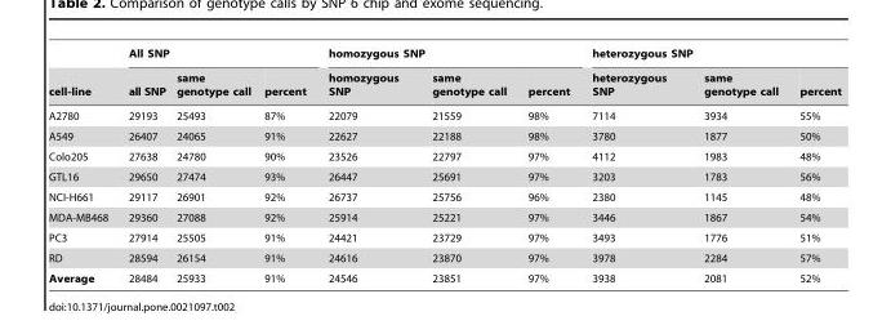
<table><thead><tr><td rowspan="2">cell-line</td><td colspan="3">All SNP</td><td colspan="3">homozygous SNP</td><td colspan="3">heterozygous SNP</td></tr><tr><td>all SNP</td><td>same genotype call</td><td>percent</td><td>homozygous SNP</td><td>same genotype call</td><td>percent</td><td>heterozygous SNP</td><td>same genotype call</td><td>percent</td></tr></thead><tbody><tr><td>A2780</td><td>29193</td><td>25493</td><td>87%</td><td>22079</td><td>21559</td><td>98%</td><td>7114</td><td>3934</td><td>55%</td></tr><tr><td>A549</td><td>26407</td><td>24065</td><td>91%</td><td>22627</td><td>22188</td><td>98%</td><td>3780</td><td>1877</td><td>50%</td></tr><tr><td>Colo205</td><td>27638</td><td>24780</td><td>90%</td><td>23526</td><td>22797</td><td>97%</td><td>4112</td><td>1983</td><td>48%</td></tr><tr><td>GTL16</td><td>29650</td><td>27474</td><td>93%</td><td>26447</td><td>25691</td><td>97%</td><td>3203</td><td>1783</td><td>56%</td></tr><tr><td>NCI-H661</td><td>29117</td><td>26901</td><td>92%</td><td>26737</td><td>25756</td><td>96%</td><td>2380</td><td>1145</td><td>48%</td></tr><tr><td>MDA-MB468</td><td>29360</td><td>27088</td><td>92%</td><td>25914</td><td>25221</td><td>97%</td><td>3446</td><td>1867</td><td>54%</td></tr><tr><td>PC3</td><td>27914</td><td>25505</td><td>91%</td><td>24421</td><td>23729</td><td>97%</td><td>3493</td><td>1776</td><td>51%</td></tr><tr><td>RD</td><td>28594</td><td>26154</td><td>91%</td><td>24616</td><td>23870</td><td>97%</td><td>3978</td><td>2284</td><td>57%</td></tr><tr><td>Average</td><td>28484</td><td>25933</td><td>91%</td><td>24546</td><td>23851</td><td>97%</td><td>3938</td><td>2081</td><td>52%</td></tr></tbody></table>